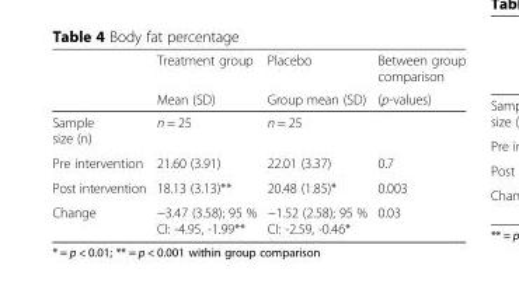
<table><thead><tr><td rowspan="2"></td><td rowspan="2">Treatment group Mean (SD)</td><td rowspan="2">Placebo Group mean (SD)</td><td rowspan="2">Between group comparison (p-values)</td></tr><tr></tr></thead><tbody><tr><td>Sample size (n)</td><td>n = 25</td><td>n = 25</td><td></td></tr><tr><td>Pre intervention</td><td>21.60 (3.91)</td><td>22.01 (3.37)</td><td>0.7</td></tr><tr><td>Post intervention</td><td>18.13 (3.13)**</td><td>20.48 (1.85)*</td><td>0.003</td></tr><tr><td>Change</td><td>−3.47 (3.58); 95 % CI: -4.95, -1.99**</td><td>−1.52 (2.58); 95 % CI: -2.59, -0.46*</td><td>0.03</td></tr></tbody></table>